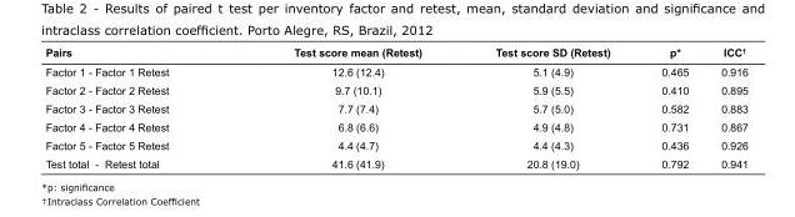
<table><thead><tr><td>Pairs</td><td>Test score mean (Retest)</td><td>Test score SD (Retest)</td><td>p*</td><td>ICC<sup>†</sup></td></tr></thead><tbody><tr><td>Factor 1 - Factor 1 Retest</td><td>12.6 (12.4)</td><td>5.1 (4.9)</td><td>0.465</td><td>0.916</td></tr><tr><td>Factor 2 - Factor 2 Retest</td><td>9.7 (10.1)</td><td>5.9 (5.5)</td><td>0.410</td><td>0.895</td></tr><tr><td>Factor 3 - Factor 3 Retest</td><td>7.7 (7.4)</td><td>5.7 (5.0)</td><td>0.582</td><td>0.883</td></tr><tr><td>Factor 4 - Factor 4 Retest</td><td>6.8 (6.6)</td><td>4.9 (4.8)</td><td>0.731</td><td>0.867</td></tr><tr><td>Factor 5 - Factor 5 Retest</td><td>4.4 (4.7)</td><td>4.4 (4.3)</td><td>0.436</td><td>0.926</td></tr><tr><td>Test total - Retest total</td><td>41.6 (41.9)</td><td>20.8 (19.0)</td><td>0.792</td><td>0.941</td></tr></tbody></table>